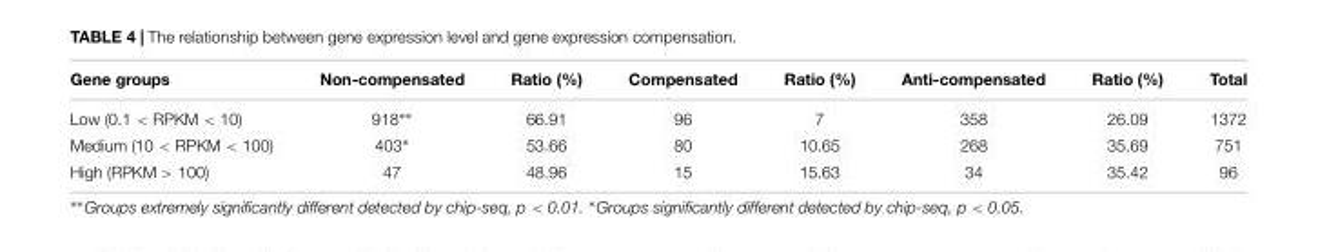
<table><thead><tr><td>Gene groups</td><td>Non-compensated</td><td>Ratio (%)</td><td>Compensated</td><td>Ratio (%)</td><td>Anti-compensated</td><td>Ratio (%)</td><td>Total</td></tr></thead><tbody><tr><td>Low (0.1 &lt; RPKM &lt; 10)</td><td>918∗∗</td><td>66.91</td><td>96</td><td>7</td><td>358</td><td>26.09</td><td>1372</td></tr><tr><td>Medium (10 &lt; RPKM &lt; 100)</td><td>403∗</td><td>53.66</td><td>80</td><td>10.65</td><td>268</td><td>35.69</td><td>751</td></tr><tr><td>High (RPKM &gt; 100)</td><td>47</td><td>48.96</td><td>15</td><td>15.63</td><td>34</td><td>35.42</td><td>96</td></tr></tbody></table>